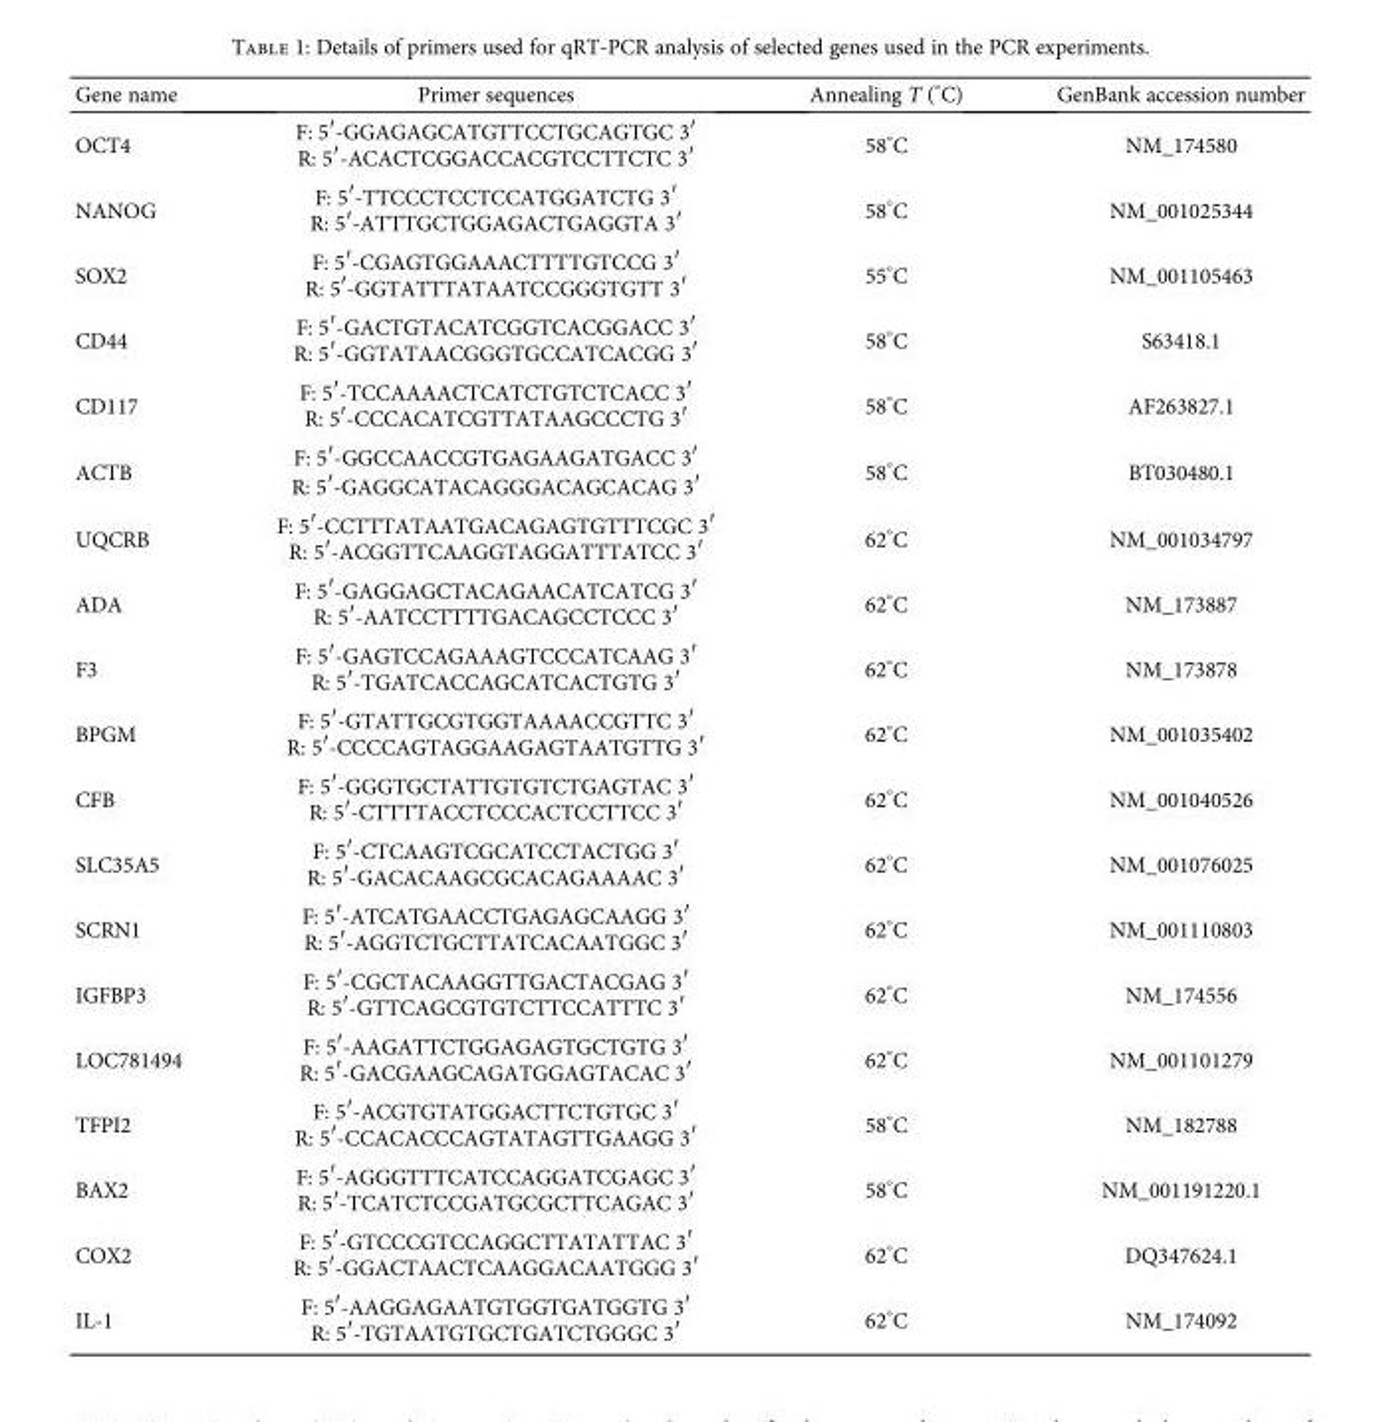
<table><thead><tr><td>Gene name</td><td>Primer sequences</td><td>Annealing T (°C)</td><td>GenBank accession number</td></tr></thead><tbody><tr><td>OCT4</td><td>F: 5′-GGAGAGCATGTTCCTGCAGTGC 3′ R: 5′-ACACTCGGACCACGTCCTTCTC 3′</td><td>58°C</td><td>NM_174580</td></tr><tr><td>NANOG</td><td>F: 5′-TTCCCTCCTCCATGGATCTG 3′ R: 5′-ATTTGCTGGAGACTGAGGTA 3′</td><td>58°C</td><td>NM_001025344</td></tr><tr><td>SOX2</td><td>F: 5′-CGAGTGGAAACTTTTGTCCG 3′ R: 5′-GGTATTTATAATCCGGGTGTT 3′</td><td>55°C</td><td>NM_001105463</td></tr><tr><td>CD44</td><td>F: 5′-GACTGTACATCGGTCACGGACC 3′ R: 5′-GGTATAACGGGTGCCATCACGG 3′</td><td>58°C</td><td>S63418.1</td></tr><tr><td>CD117</td><td>F: 5′-TCCAAAACTCATCTGTCTCACC 3′ R: 5′-CCCACATCGTTATAAGCCCTG 3′</td><td>58°C</td><td>AF263827.1</td></tr><tr><td>ACTB</td><td>F: 5′-GGCCAACCGTGAGAAGATGACC 3′ R: 5′-GAGGCATACAGGGACAGCACAG 3′</td><td>58°C</td><td>BT030480.1</td></tr><tr><td>UQCRB</td><td>F: 5′-CCTTTATAATGACAGAGTGTTTCGC 3′ R: 5′-ACGGTTCAAGGTAGGATTTATCC 3′</td><td>62°C</td><td>NM_001034797</td></tr><tr><td>ADA</td><td>F: 5′-GAGGAGCTACAGAACATCATCG 3′ R: 5′-AATCCTTTTGACAGCCTCCC 3′</td><td>62°C</td><td>NM_173887</td></tr><tr><td>F3</td><td>F: 5′-GAGTCCAGAAAGTCCCATCAAG 3′ R: 5′-TGATCACCAGCATCACTGTG 3′</td><td>62°C</td><td>NM_173878</td></tr><tr><td>BPGM</td><td>F: 5′-GTATTGCGTGGTAAAACCGTTC 3′ R: 5′-CCCCAGTAGGAAGAGTAATGTTG 3′</td><td>62°C</td><td>NM_001035402</td></tr><tr><td>CFB</td><td>F: 5′-GGGTGCTATTGTGTCTGAGTAC 3′ R: 5′-CTTTTACCTCCCACTCCTTCC 3′</td><td>62°C</td><td>NM_001040526</td></tr><tr><td>SLC35A5</td><td>F: 5′-CTCAAGTCGCATCCTACTGG 3′ R: 5′-GACACAAGCGCACAGAAAAC 3′</td><td>62°C</td><td>NM_001076025</td></tr><tr><td>SCRN1</td><td>F: 5′-ATCATGAACCTGAGAGCAAGG 3′ R: 5′-AGGTCTGCTTATCACAATGGC 3′</td><td>62°C</td><td>NM_001110803</td></tr><tr><td>IGFBP3</td><td>F: 5′-CGCTACAAGGTTGACTACGAG 3′ R: 5′-GTTCAGCGTGTCTTCCATTTC 3′</td><td>62°C</td><td>NM_174556</td></tr><tr><td>LOC781494</td><td>F: 5′-AAGATTCTGGAGAGTGCTGTG 3′ R: 5′-GACGAAGCAGATGGAGTACAC 3′</td><td>62°C</td><td>NM_001101279</td></tr><tr><td>TFPI2</td><td>F: 5′-ACGTGTATGGACTTCTGTGC 3′ R: 5′-CCACACCCAGTATAGTTGAAGG 3′</td><td>58°C</td><td>NM_182788</td></tr><tr><td>BAX2</td><td>F: 5′-AGGGTTTCATCCAGGATCGAGC 3′ R: 5′-TCATCTCCGATGCGCTTCAGAC 3′</td><td>58°C</td><td>NM_001191220.1</td></tr><tr><td>COX2</td><td>F: 5′-GTCCCGTCCAGGCTTATATTAC 3′ R: 5′-GGACTAACTCAAGGACAATGGG 3′</td><td>62°C</td><td>DQ347624.1</td></tr><tr><td>IL-1</td><td>F: 5′-AAGGAGAATGTGGTGATGGTG 3′ R: 5′-TGTAATGTGCTGATCTGGGC 3′</td><td>62°C</td><td>NM_174092</td></tr></tbody></table>